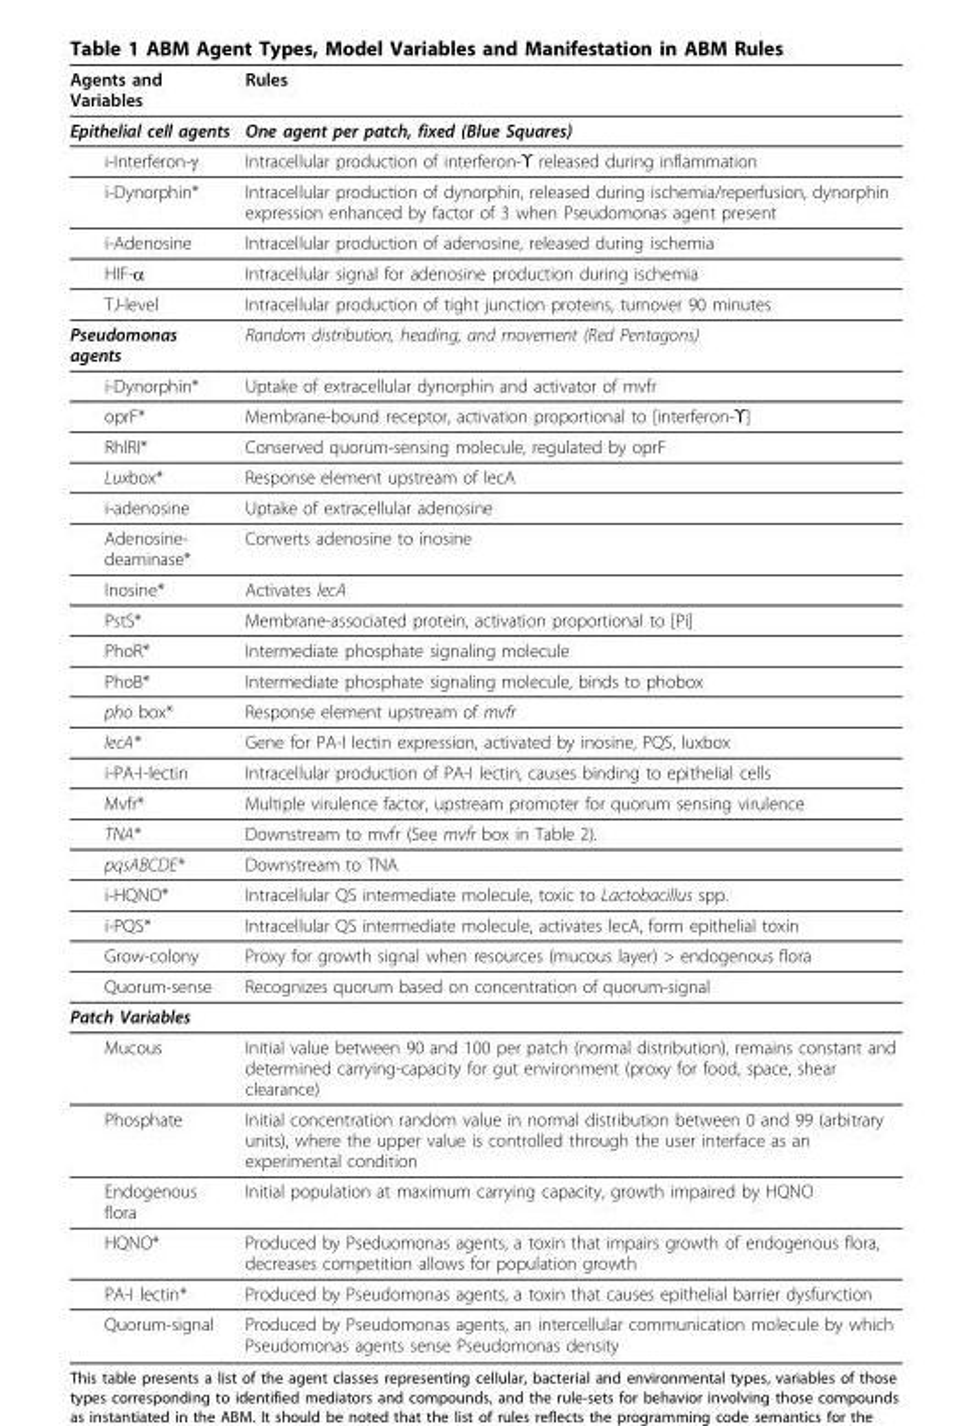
<table><thead><tr><td>Agents and Variables</td><td>Rules</td></tr></thead><tbody><tr><td>Epithelial cell agents</td><td>One agent per patch, fixed (Blue Squares)</td></tr><tr><td>i-Interferon-γ</td><td>Intracellular production of interferon-ϒ released during inflammation</td></tr><tr><td>i-Dynorphin*</td><td>Intracellular production of dynorphin, released during ischemia/reperfusion, dynorphin expression enhanced by factor of 3 when Pseudomonas agent present</td></tr><tr><td>i-Adenosine</td><td>Intracellular production of adenosine, released during ischemia</td></tr><tr><td>HIF-α</td><td>Intracellular signal for adenosine production during ischemia</td></tr><tr><td>TJ-level</td><td>Intracellular production of tight junction proteins, turnover 90 minutes</td></tr><tr><td>Pseudomonas agents</td><td>Random distribution, heading, and movement (Red Pentagons)</td></tr><tr><td>i-Dynorphin*</td><td>Uptake of extracellular dynorphin and activator of mvfr</td></tr><tr><td>oprF*</td><td>Membrane-bound receptor, activation proportional to [interferon-ϒ]</td></tr><tr><td>RhlRI*</td><td>Conserved quorum-sensing molecule, regulated by oprF</td></tr><tr><td>Luxbox*</td><td>Response element upstream of lecA</td></tr><tr><td>i-adenosine</td><td>Uptake of extracellular adenosine</td></tr><tr><td>Adenosine- deaminase*</td><td>Converts adenosine to inosine</td></tr><tr><td>Inosine*</td><td>Activates lecA</td></tr><tr><td>PstS*</td><td>Membrane-associated protein, activation proportional to [Pi]</td></tr><tr><td>PhoR*</td><td>Intermediate phosphate signaling molecule</td></tr><tr><td>PhoB*</td><td>Intermediate phosphate signaling molecule, binds to phobox</td></tr><tr><td>pho box*</td><td>Response element upstream of mvfr</td></tr><tr><td>lecA*</td><td>Gene for PA-I lectin expression, activated by inosine, PQS, luxbox</td></tr><tr><td>i-PA-I-lectin</td><td>Intracellular production of PA-I lectin, causes binding to epithelial cells</td></tr><tr><td>Mvfr*</td><td>Multiple virulence factor, upstream promoter for quorum sensing virulence</td></tr><tr><td>TNA*</td><td>Downstream to mvfr (See mvfr box in Table 2).</td></tr><tr><td>pqsABCDE*</td><td>Downstream to TNA</td></tr><tr><td>i-HQNO*</td><td>Intracellular QS intermediate molecule, toxic to Lactobacillus spp.</td></tr><tr><td>i-PQS*</td><td>Intracellular QS intermediate molecule, activates lecA, form epithelial toxin</td></tr><tr><td>Grow-colony</td><td>Proxy for growth signal when resources (mucous layer) &gt; endogenous flora</td></tr><tr><td>Quorum-sense</td><td>Recognizes quorum based on concentration of quorum-signal</td></tr><tr><td colspan="2">Patch Variables</td></tr><tr><td>Mucous</td><td>Initial value between 90 and 100 per patch (normal distribution), remains constant and determined carrying-capacity for gut environment (proxy for food, space, shear clearance)</td></tr><tr><td>Phosphate</td><td>Initial concentration random value in normal distribution between 0 and 99 (arbitrary units), where the upper value is controlled through the user interface as an experimental condition</td></tr><tr><td>Endogenous flora</td><td>Initial population at maximum carrying capacity, growth impaired by HQNO</td></tr><tr><td>HQNO*</td><td>Produced by Pseduomonas agents, a toxin that impairs growth of endogenous flora, decreases competition allows for population growth</td></tr><tr><td>PA-I lectin*</td><td>Produced by Pseudomonas agents, a toxin that causes epithelial barrier dysfunction</td></tr><tr><td>Quorum-signal</td><td>Produced by Pseudomonas agents, an intercellular communication molecule by which Pseudomonas agents sense Pseudomonas density</td></tr></tbody></table>